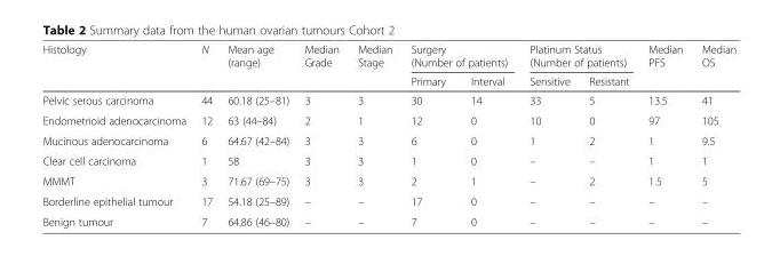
<table><thead><tr><td rowspan="2">Histology</td><td rowspan="2">N</td><td rowspan="2">Mean age (range)</td><td rowspan="2">Median Grade</td><td rowspan="2">Median Stage</td><td colspan="2">Surgery (Number of patients)</td><td colspan="2">Platinum Status (Number of patients)</td><td rowspan="2">Median PFS</td><td rowspan="2">Median OS</td></tr><tr><td>Primary</td><td>Interval</td><td>Sensitive</td><td>Resistant</td></tr></thead><tbody><tr><td>Pelvic serous carcinoma</td><td>44</td><td>60.18 (25–81)</td><td>3</td><td>3</td><td>30</td><td>14</td><td>33</td><td>5</td><td>13.5</td><td>41</td></tr><tr><td>Endometrioid adenocarcinoma</td><td>12</td><td>63 (44–84)</td><td>2</td><td>1</td><td>12</td><td>0</td><td>10</td><td>0</td><td>97</td><td>105</td></tr><tr><td>Mucinous adenocarcinoma</td><td>6</td><td>64.67 (42–84)</td><td>3</td><td>3</td><td>6</td><td>0</td><td>1</td><td>2</td><td>1</td><td>9.5</td></tr><tr><td>Clear cell carcinoma</td><td>1</td><td>58</td><td>3</td><td>3</td><td>1</td><td>0</td><td>–</td><td>–</td><td>1</td><td>1</td></tr><tr><td>MMMT</td><td>3</td><td>71.67 (69–75)</td><td>3</td><td>3</td><td>2</td><td>1</td><td>–</td><td>2</td><td>1.5</td><td>5</td></tr><tr><td>Borderline epithelial tumour</td><td>17</td><td>54.18 (25–89)</td><td>–</td><td>–</td><td>17</td><td>0</td><td>–</td><td>–</td><td>–</td><td>–</td></tr><tr><td>Benign tumour</td><td>7</td><td>64.86 (46–80)</td><td>–</td><td>–</td><td>7</td><td>0</td><td>–</td><td>–</td><td>–</td><td>–</td></tr></tbody></table>